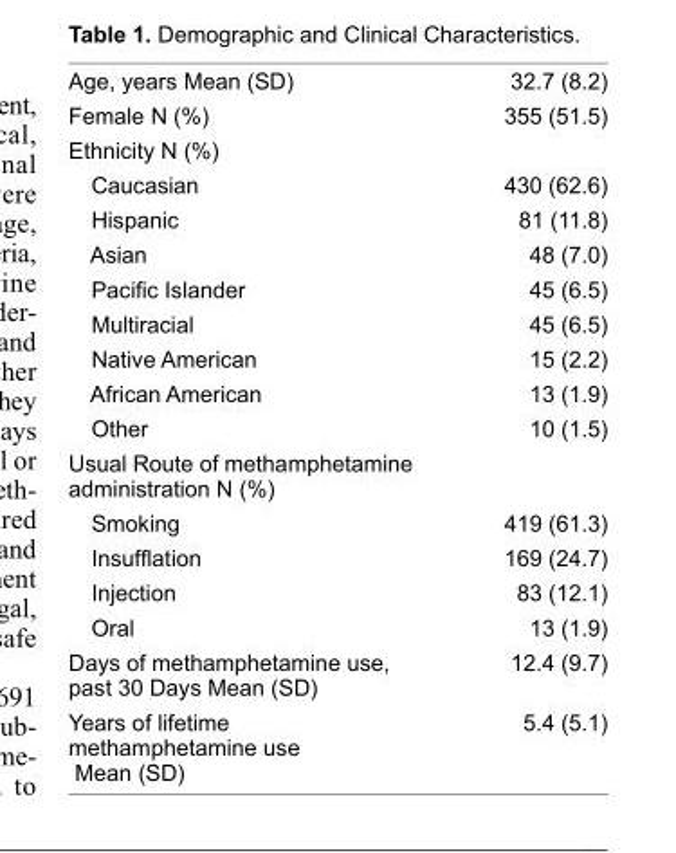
<table><tbody><tr><td>Age, years Mean (SD)</td><td>32.7 (8.2)</td></tr><tr><td>Female N (%)</td><td>355 (51.5)</td></tr><tr><td colspan="2">Ethnicity N (%)</td></tr><tr><td>Caucasian</td><td>430 (62.6)</td></tr><tr><td>Hispanic</td><td>81 (11.8)</td></tr><tr><td>Asian</td><td>48 (7.0)</td></tr><tr><td>Pacifi c Islander</td><td>45 (6.5)</td></tr><tr><td>Multiracial</td><td>45 (6.5)</td></tr><tr><td>Native American</td><td>15 (2.2)</td></tr><tr><td>African American</td><td>13 (1.9)</td></tr><tr><td>Other</td><td>10 (1.5)</td></tr><tr><td colspan="2">Usual Route of methamphetamine administration N (%)</td></tr><tr><td>Smoking</td><td>419 (61.3)</td></tr><tr><td>Insuffl ation</td><td>169 (24.7)</td></tr><tr><td>Injection</td><td>83 (12.1)</td></tr><tr><td>Oral</td><td>13 (1.9)</td></tr><tr><td>Days of methamphetamine use, past 30 Days Mean (SD)</td><td>12.4 (9.7)</td></tr><tr><td>Years of lifetime methamphetamine use Mean (SD)</td><td>5.4 (5.1)</td></tr></tbody></table>